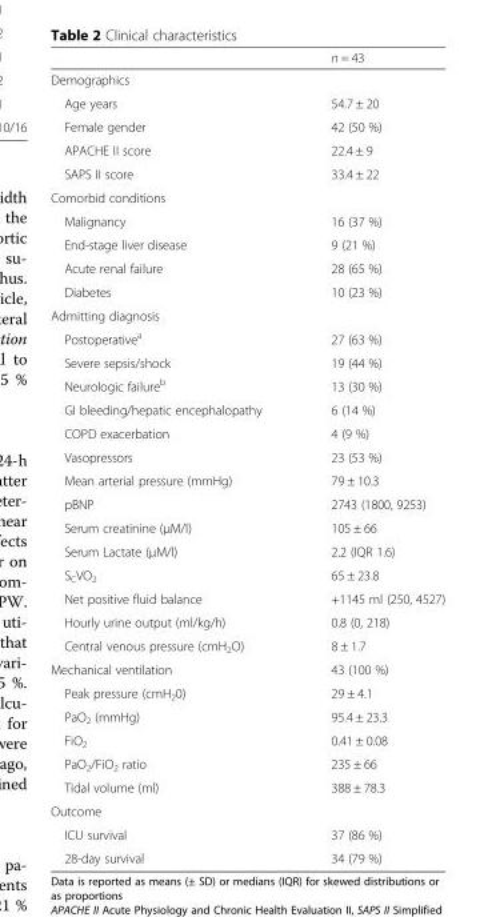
<table><thead><tr><td></td><td>n = 43</td></tr></thead><tbody><tr><td colspan="2">Demographics</td></tr><tr><td>Age years</td><td>54.7 ± 20</td></tr><tr><td>Female gender</td><td>42 (50 %)</td></tr><tr><td>APACHE II score</td><td>22.4 ± 9</td></tr><tr><td>SAPS II score</td><td>33.4 ± 22</td></tr><tr><td colspan="2">Comorbid conditions</td></tr><tr><td>Malignancy</td><td>16 (37 %)</td></tr><tr><td>End-stage liver disease</td><td>9 (21 %)</td></tr><tr><td>Acute renal failure</td><td>28 (65 %)</td></tr><tr><td>Diabetes</td><td>10 (23 %)</td></tr><tr><td colspan="2">Admitting diagnosis</td></tr><tr><td>Postoperative<sup>a</sup></td><td>27 (63 %)</td></tr><tr><td>Severe sepsis/shock</td><td>19 (44 %)</td></tr><tr><td>Neurologic failure<sup>b</sup></td><td>13 (30 %)</td></tr><tr><td>GI bleeding/hepatic encephalopathy</td><td>6 (14 %)</td></tr><tr><td>COPD exacerbation</td><td>4 (9 %)</td></tr><tr><td>Vasopressors</td><td>23 (53 %)</td></tr><tr><td>Mean arterial pressure (mmHg)</td><td>79 ± 10.3</td></tr><tr><td>pBNP</td><td>2743 (1800, 9253)</td></tr><tr><td>Serum creatinine (μM/l)</td><td>105 ± 66</td></tr><tr><td>Serum Lactate (μM/l)</td><td>2.2 (IQR 1.6)</td></tr><tr><td>S<sub>C</sub>VO<sub>2</sub></td><td>65 ± 23.8</td></tr><tr><td>Net positive fluid balance</td><td>+1145 ml (250, 4527)</td></tr><tr><td>Hourly urine output (ml/kg/h)</td><td>0.8 (0, 218)</td></tr><tr><td>Central venous pressure (cmH<sub>2</sub>O)</td><td>8 ± 1.7</td></tr><tr><td>Mechanical ventilation</td><td>43 (100 %)</td></tr><tr><td>Peak pressure (cmH<sub>2</sub>0)</td><td>29 ± 4.1</td></tr><tr><td>PaO<sub>2</sub> (mmHg)</td><td>95.4 ± 23.3</td></tr><tr><td>FiO<sub>2</sub></td><td>0.41 ± 0.08</td></tr><tr><td>PaO<sub>2</sub>/FiO<sub>2</sub> ratio</td><td>235 ± 66</td></tr><tr><td>Tidal volume (ml)</td><td>388 ± 78.3</td></tr><tr><td colspan="2">Outcome</td></tr><tr><td>ICU survival</td><td>37 (86 %)</td></tr><tr><td>28-day survival</td><td>34 (79 %)</td></tr></tbody></table>